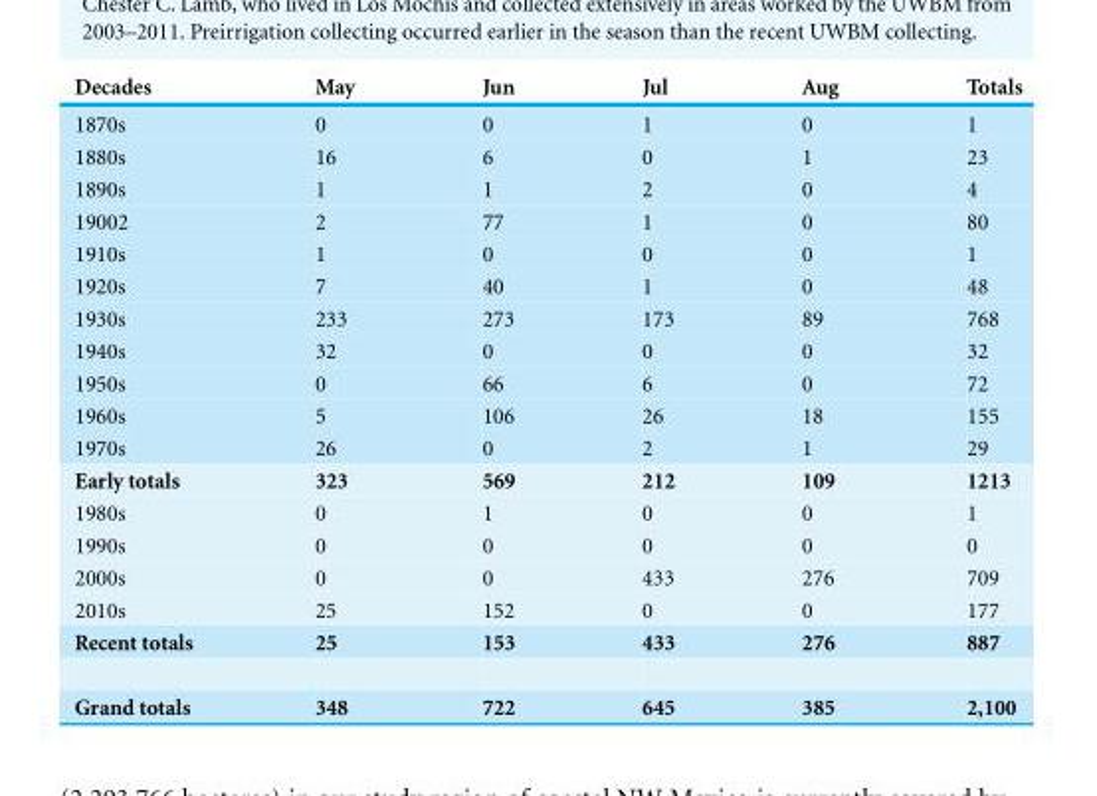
<table><thead><tr><td>Decades</td><td>May</td><td>Jun</td><td>Jul</td><td>Aug</td><td>Totals</td></tr></thead><tbody><tr><td>1870s</td><td>0</td><td>0</td><td>1</td><td>0</td><td>1</td></tr><tr><td>1880s</td><td>16</td><td>6</td><td>0</td><td>1</td><td>23</td></tr><tr><td>1890s</td><td>1</td><td>1</td><td>2</td><td>0</td><td>4</td></tr><tr><td>19002</td><td>2</td><td>77</td><td>1</td><td>0</td><td>80</td></tr><tr><td>1910s</td><td>1</td><td>0</td><td>0</td><td>0</td><td>1</td></tr><tr><td>1920s</td><td>7</td><td>40</td><td>1</td><td>0</td><td>48</td></tr><tr><td>1930s</td><td>233</td><td>273</td><td>173</td><td>89</td><td>768</td></tr><tr><td>1940s</td><td>32</td><td>0</td><td>0</td><td>0</td><td>32</td></tr><tr><td>1950s</td><td>0</td><td>66</td><td>6</td><td>0</td><td>72</td></tr><tr><td>1960s</td><td>5</td><td>106</td><td>26</td><td>18</td><td>155</td></tr><tr><td>1970s</td><td>26</td><td>0</td><td>2</td><td>1</td><td>29</td></tr><tr><td>Early totals</td><td>323</td><td>569</td><td>212</td><td>109</td><td>1213</td></tr><tr><td>1980s</td><td>0</td><td>1</td><td>0</td><td>0</td><td>1</td></tr><tr><td>1990s</td><td>0</td><td>0</td><td>0</td><td>0</td><td>0</td></tr><tr><td>2000s</td><td>0</td><td>0</td><td>433</td><td>276</td><td>709</td></tr><tr><td>2010s</td><td>25</td><td>152</td><td>0</td><td>0</td><td>177</td></tr><tr><td>Recent totals</td><td>25</td><td>153</td><td>433</td><td>276</td><td>887</td></tr><tr><td>Grand totals</td><td>348</td><td>722</td><td>645</td><td>385</td><td>2,100</td></tr></tbody></table>